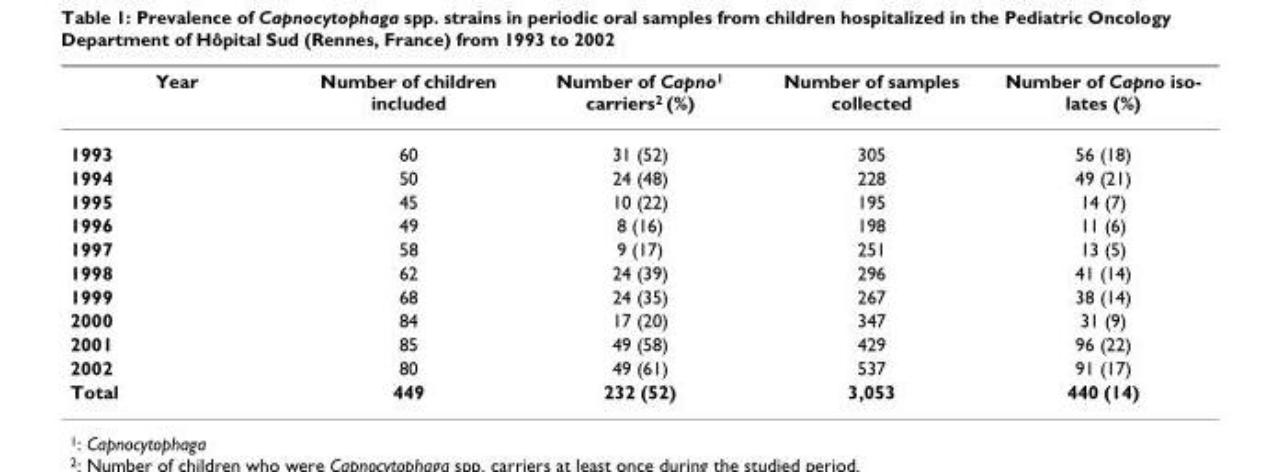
<table><thead><tr><td>Year</td><td>Number of children included</td><td>Number of Capno<sup>1</sup> carriers<sup>2</sup> (%)</td><td>Number of samples collected</td><td>Number of Capno iso- lates (%)</td></tr></thead><tbody><tr><td>1993</td><td>60</td><td>31 (52)</td><td>305</td><td>56 (18)</td></tr><tr><td>1994</td><td>50</td><td>24 (48)</td><td>228</td><td>49 (21)</td></tr><tr><td>1995</td><td>45</td><td>10 (22)</td><td>195</td><td>14 (7)</td></tr><tr><td>1996</td><td>49</td><td>8 (16)</td><td>198</td><td>11 (6)</td></tr><tr><td>1997</td><td>58</td><td>9 (17)</td><td>251</td><td>13 (5)</td></tr><tr><td>1998</td><td>62</td><td>24 (39)</td><td>296</td><td>41 (14)</td></tr><tr><td>1999</td><td>68</td><td>24 (35)</td><td>267</td><td>38 (14)</td></tr><tr><td>2000</td><td>84</td><td>17 (20)</td><td>347</td><td>31 (9)</td></tr><tr><td>2001</td><td>85</td><td>49 (58)</td><td>429</td><td>96 (22)</td></tr><tr><td>2002</td><td>80</td><td>49 (61)</td><td>537</td><td>91 (17)</td></tr><tr><td>Total</td><td>449</td><td>232 (52)</td><td>3,053</td><td>440 (14)</td></tr></tbody></table>